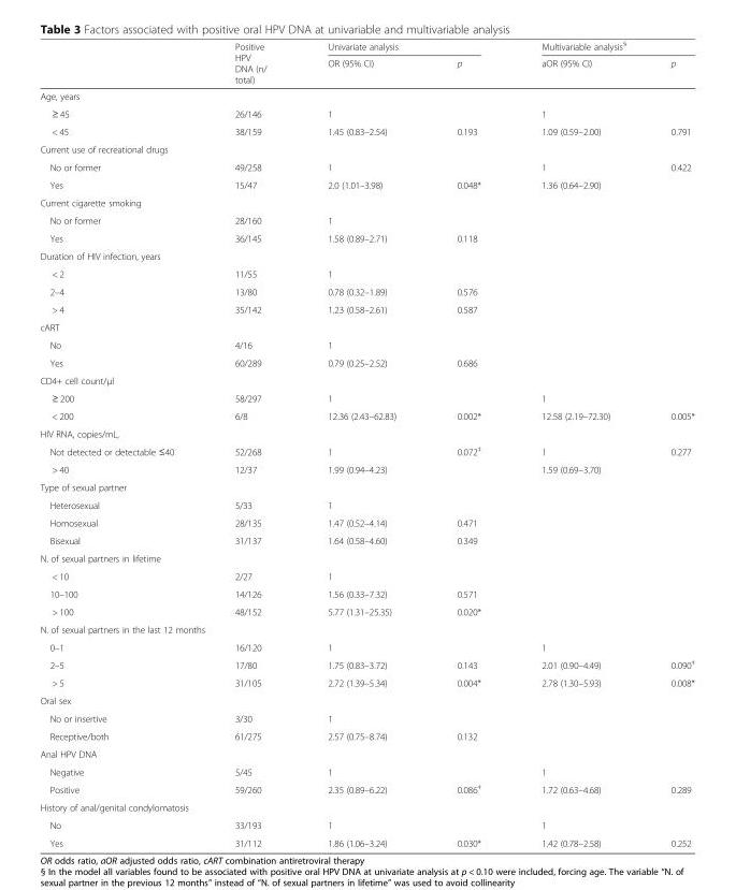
<table><thead><tr><td rowspan="2"></td><td rowspan="2">Positive HPV DNA (n/ total)</td><td colspan="2">Univariate analysis</td><td colspan="2">Multivariable analysis<sup>§</sup></td></tr><tr><td>OR (95% CI)</td><td>p</td><td>aOR (95% CI)</td><td>p</td></tr></thead><tbody><tr><td colspan="6">Age, years</td></tr><tr><td>≥ 45</td><td>26/146</td><td>1</td><td></td><td>1</td><td></td></tr><tr><td>&lt; 45</td><td>38/159</td><td>1.45 (0.83–2.54)</td><td>0.193</td><td>1.09 (0.59–2.00)</td><td>0.791</td></tr><tr><td colspan="6">Current use of recreational drugs</td></tr><tr><td>No or former</td><td>49/258</td><td>1</td><td></td><td>1</td><td>0.422</td></tr><tr><td>Yes</td><td>15/47</td><td>2.0 (1.01–3.98)</td><td>0.048*</td><td>1.36 (0.64–2.90)</td><td></td></tr><tr><td colspan="6">Current cigarette smoking</td></tr><tr><td>No or former</td><td>28/160</td><td>1</td><td></td><td></td><td></td></tr><tr><td>Yes</td><td>36/145</td><td>1.58 (0.89–2.71)</td><td>0.118</td><td></td><td></td></tr><tr><td colspan="6">Duration of HIV infection, years</td></tr><tr><td>&lt; 2</td><td>11/55</td><td>1</td><td></td><td></td><td></td></tr><tr><td>2–4</td><td>13/80</td><td>0.78 (0.32–1.89)</td><td>0.576</td><td></td><td></td></tr><tr><td>&gt; 4</td><td>35/142</td><td>1.23 (0.58–2.61)</td><td>0.587</td><td></td><td></td></tr><tr><td colspan="6">cART</td></tr><tr><td>No</td><td>4/16</td><td>1</td><td></td><td></td><td></td></tr><tr><td>Yes</td><td>60/289</td><td>0.79 (0.25–2.52)</td><td>0.686</td><td></td><td></td></tr><tr><td colspan="6">CD4+ cell count/μl</td></tr><tr><td>≥ 200</td><td>58/297</td><td>1</td><td></td><td>1</td><td></td></tr><tr><td>&lt; 200</td><td>6/8</td><td>12.36 (2.43–62.83)</td><td>0.002*</td><td>12.58 (2.19–72.30)</td><td>0.005*</td></tr><tr><td colspan="6">HIV RNA, copies/mL,</td></tr><tr><td>Not detected or detectable ≤40</td><td>52/268</td><td>1</td><td>0.072<sup>‡</sup></td><td>1</td><td>0.277</td></tr><tr><td>&gt; 40</td><td>12/37</td><td>1.99 (0.94–4.23)</td><td></td><td>1.59 (0.69–3.70)</td><td></td></tr><tr><td colspan="6">Type of sexual partner</td></tr><tr><td>Heterosexual</td><td>5/33</td><td>1</td><td></td><td></td><td></td></tr><tr><td>Homosexual</td><td>28/135</td><td>1.47 (0.52–4.14)</td><td>0.471</td><td></td><td></td></tr><tr><td>Bisexual</td><td>31/137</td><td>1.64 (0.58–4.60)</td><td>0.349</td><td></td><td></td></tr><tr><td colspan="6">N. of sexual partners in lifetime</td></tr><tr><td>&lt; 10</td><td>2/27</td><td>1</td><td></td><td></td><td></td></tr><tr><td>10–100</td><td>14/126</td><td>1.56 (0.33–7.32)</td><td>0.571</td><td></td><td></td></tr><tr><td>&gt; 100</td><td>48/152</td><td>5.77 (1.31–25.35)</td><td>0.020*</td><td></td><td></td></tr><tr><td colspan="6">N. of sexual partners in the last 12 months</td></tr><tr><td>0–1</td><td>16/120</td><td>1</td><td></td><td>1</td><td></td></tr><tr><td>2–5</td><td>17/80</td><td>1.75 (0.83–3.72)</td><td>0.143</td><td>2.01 (0.90–4.49)</td><td>0.090<sup>‡</sup></td></tr><tr><td>&gt; 5</td><td>31/105</td><td>2.72 (1.39–5.34)</td><td>0.004*</td><td>2.78 (1.30–5.93)</td><td>0.008*</td></tr><tr><td colspan="6">Oral sex</td></tr><tr><td>No or insertive</td><td>3/30</td><td>1</td><td></td><td></td><td></td></tr><tr><td>Receptive/both</td><td>61/275</td><td>2.57 (0.75–8.74)</td><td>0.132</td><td></td><td></td></tr><tr><td colspan="6">Anal HPV DNA</td></tr><tr><td>Negative</td><td>5/45</td><td>1</td><td></td><td>1</td><td></td></tr><tr><td>Positive</td><td>59/260</td><td>2.35 (0.89–6.22)</td><td>0.086<sup>‡</sup></td><td>1.72 (0.63–4.68)</td><td>0.289</td></tr><tr><td colspan="6">History of anal/genital condylomatosis</td></tr><tr><td>No</td><td>33/193</td><td>1</td><td></td><td>1</td><td></td></tr><tr><td>Yes</td><td>31/112</td><td>1.86 (1.06–3.24)</td><td>0.030*</td><td>1.42 (0.78–2.58)</td><td>0.252</td></tr></tbody></table>